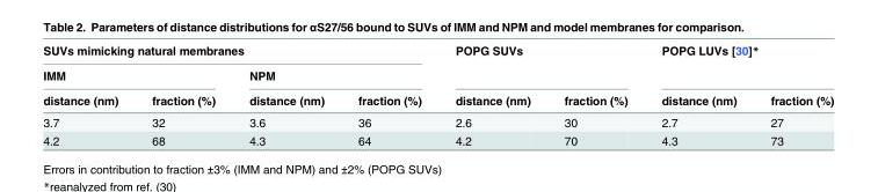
<table><thead><tr><td colspan="4">SUVs mimicking natural membranes</td><td rowspan="2" colspan="2">POPG SUVs</td><td rowspan="2" colspan="2">POPG LUVs [30]*</td></tr><tr><td colspan="2">IMM</td><td colspan="2">NPM</td></tr><tr><td>distance (nm)</td><td>fraction (%)</td><td>distance (nm)</td><td>fraction (%)</td><td>distance (nm)</td><td>fraction (%)</td><td>distance (nm)</td><td>fraction (%)</td></tr></thead><tbody><tr><td>3.7</td><td>32</td><td>3.6</td><td>36</td><td>2.6</td><td>30</td><td>2.7</td><td>27</td></tr><tr><td>4.2</td><td>68</td><td>4.3</td><td>64</td><td>4.2</td><td>70</td><td>4.3</td><td>73</td></tr></tbody></table>